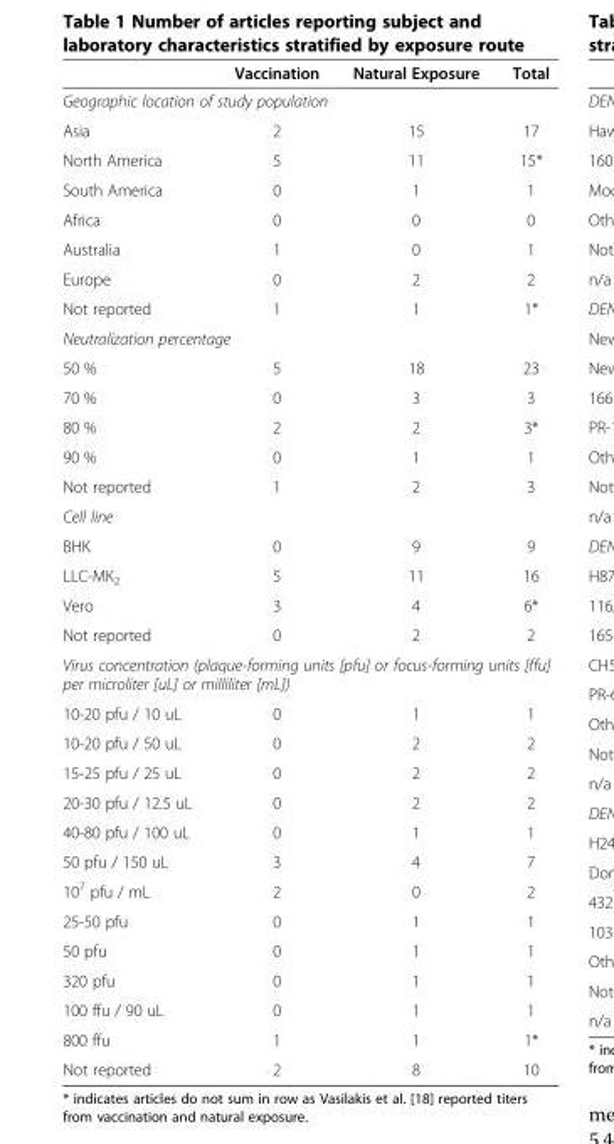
<table><thead><tr><td></td><td>Vaccination</td><td>Natural Exposure</td><td>Total</td></tr></thead><tbody><tr><td colspan="4">Geographic location of study population</td></tr><tr><td>Asia</td><td>2</td><td>15</td><td>17</td></tr><tr><td>North America</td><td>5</td><td>11</td><td>15*</td></tr><tr><td>South America</td><td>0</td><td>1</td><td>1</td></tr><tr><td>Africa</td><td>0</td><td>0</td><td>0</td></tr><tr><td>Australia</td><td>1</td><td>0</td><td>1</td></tr><tr><td>Europe</td><td>0</td><td>2</td><td>2</td></tr><tr><td>Not reported</td><td>1</td><td>1</td><td>1*</td></tr><tr><td colspan="4">Neutralization percentage</td></tr><tr><td>50 %</td><td>5</td><td>18</td><td>23</td></tr><tr><td>70 %</td><td>0</td><td>3</td><td>3</td></tr><tr><td>80 %</td><td>2</td><td>2</td><td>3*</td></tr><tr><td>90 %</td><td>0</td><td>1</td><td>1</td></tr><tr><td>Not reported</td><td>1</td><td>2</td><td>3</td></tr><tr><td colspan="4">Cell line</td></tr><tr><td>BHK</td><td>0</td><td>9</td><td>9</td></tr><tr><td>LLC-MK<sub>2</sub></td><td>5</td><td>11</td><td>16</td></tr><tr><td>Vero</td><td>3</td><td>4</td><td>6*</td></tr><tr><td>Not reported</td><td>0</td><td>2</td><td>2</td></tr><tr><td colspan="4">Virus concentration (plaque-forming units [pfu] or focus-forming units [ffu] per microliter [uL] or milliliter [mL])</td></tr><tr><td>10-20 pfu / 10 uL</td><td>0</td><td>1</td><td>1</td></tr><tr><td>10-20 pfu / 50 uL</td><td>0</td><td>2</td><td>2</td></tr><tr><td>15-25 pfu / 25 uL</td><td>0</td><td>2</td><td>2</td></tr><tr><td>20-30 pfu / 12.5 uL</td><td>0</td><td>2</td><td>2</td></tr><tr><td>40-80 pfu / 100 uL</td><td>0</td><td>1</td><td>1</td></tr><tr><td>50 pfu / 150 uL</td><td>3</td><td>4</td><td>7</td></tr><tr><td>10<sup>7</sup> pfu / mL</td><td>2</td><td>0</td><td>2</td></tr><tr><td>25-50 pfu</td><td>0</td><td>1</td><td>1</td></tr><tr><td>50 pfu</td><td>0</td><td>1</td><td>1</td></tr><tr><td>320 pfu</td><td>0</td><td>1</td><td>1</td></tr><tr><td>100 ffu / 90 uL</td><td>0</td><td>1</td><td>1</td></tr><tr><td>800 ffu</td><td>1</td><td>1</td><td>1*</td></tr><tr><td>Not reported</td><td>2</td><td>8</td><td>10</td></tr></tbody></table>